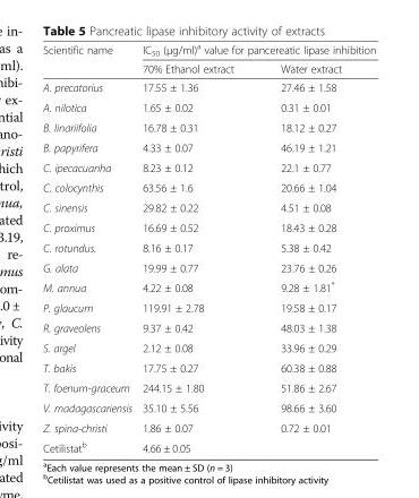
<table><thead><tr><td rowspan="2">Scientific name</td><td colspan="2">IC<sub>50</sub> (μg/ml)<sup>a</sup> value for pancereatic lipase inhibition</td></tr><tr><td>70% Ethanol extract</td><td>Water extract</td></tr></thead><tbody><tr><td>A. precatorius</td><td>17.55 ± 1.36</td><td>27.46 ± 1.58</td></tr><tr><td>A. nilotica</td><td>1.65 ± 0.02</td><td>0.31 ± 0.01</td></tr><tr><td>B. linariifolia</td><td>16.78 ± 0.31</td><td>18.12 ± 0.27</td></tr><tr><td>B. papyrifera</td><td>4.33 ± 0.07</td><td>46.19 ± 1.21</td></tr><tr><td>C. ipecacuanha</td><td>8.23 ± 0.12</td><td>22.1 ± 0.77</td></tr><tr><td>C. colocynthis</td><td>63.56 ± 1.6</td><td>20.66 ± 1.04</td></tr><tr><td>C. sinensis</td><td>29.82 ± 0.22</td><td>4.51 ± 0.08</td></tr><tr><td>C. proximus</td><td>16.69 ± 0.52</td><td>18.43 ± 0.28</td></tr><tr><td>C. rotundus.</td><td>8.16 ± 0.17</td><td>5.38 ± 0.42</td></tr><tr><td>G. alata</td><td>19.99 ± 0.77</td><td>23.76 ± 0.26</td></tr><tr><td>M. annua</td><td>4.22 ± 0.08</td><td>9.28 ± 1.81*</td></tr><tr><td>P. glaucum</td><td>119.91 ± 2.78</td><td>19.58 ± 0.17</td></tr><tr><td>R. graveolens</td><td>9.37 ± 0.42</td><td>48.03 ± 1.38</td></tr><tr><td>S. argel</td><td>2.12 ± 0.08</td><td>33.96 ± 0.29</td></tr><tr><td>T. bakis</td><td>17.75 ± 0.27</td><td>60.38 ± 0.88</td></tr><tr><td>T. foenum-graceum</td><td>244.15 ± 1.80</td><td>51.86 ± 2.67</td></tr><tr><td>V. madagascariensis</td><td>35.10 ± 5.56</td><td>98.66 ± 3.60</td></tr><tr><td>Z. spina-christi</td><td>1.86 ± 0.07</td><td>0.72 ± 0.01</td></tr><tr><td>Cetilistat<sup>b</sup></td><td colspan="2">4.66 ± 0.05</td></tr></tbody></table>